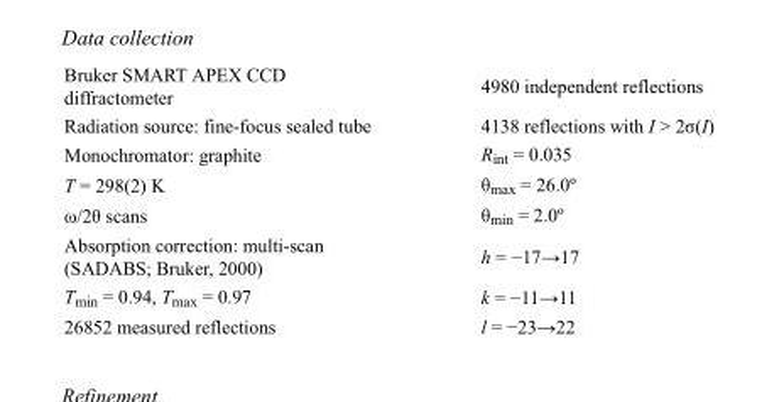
<table><tbody><tr><td>Bruker SMART APEX CCD diffractometer</td><td>4980 independent reflections</td></tr><tr><td>Radiation source: fine-focus sealed tube</td><td>4138 reflections with I &gt; 2σ(I)</td></tr><tr><td>Monochromator: graphite</td><td>R<sub>int</sub> = 0.035</td></tr><tr><td>T = 298(2) K</td><td>θ<sub>max</sub> = 26.0º</td></tr><tr><td>ω/2θ scans</td><td>θ<sub>min</sub> = 2.0º</td></tr><tr><td>Absorption correction: multi-scan (SADABS; Bruker, 2000)</td><td>h = −17→17</td></tr><tr><td>T<sub>min</sub> = 0.94, T<sub>max</sub> = 0.97</td><td>k = −11→11</td></tr><tr><td>26852 measured reflections</td><td>l = −23→22</td></tr></tbody></table>